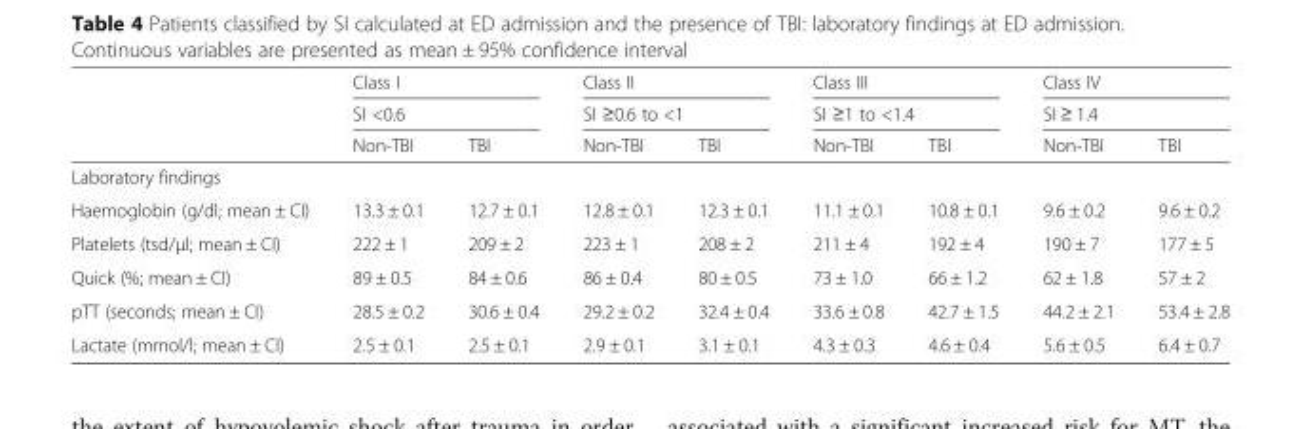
<table><thead><tr><td rowspan="3"></td><td rowspan="2" colspan="2">Class I SI &lt;0.6</td><td rowspan="2" colspan="2">Class II SI ≥0.6 to &lt;1</td><td rowspan="2" colspan="2">Class III SI ≥1 to &lt;1.4</td><td rowspan="2" colspan="2">Class IV SI ≥ 1.4</td></tr><tr></tr><tr><td>Non-TBI</td><td>TBI</td><td>Non-TBI</td><td>TBI</td><td>Non-TBI</td><td>TBI</td><td>Non-TBI</td><td>TBI</td></tr></thead><tbody><tr><td colspan="9">Laboratory findings</td></tr><tr><td>Haemoglobin (g/dl; mean ± CI)</td><td>13.3 ± 0.1</td><td>12.7 ± 0.1</td><td>12.8 ± 0.1</td><td>12.3 ± 0.1</td><td>11.1 ± 0.1</td><td>10.8 ± 0.1</td><td>9.6 ± 0.2</td><td>9.6 ± 0.2</td></tr><tr><td>Platelets (tsd/μl; mean ± CI)</td><td>222 ± 1</td><td>209 ± 2</td><td>223 ± 1</td><td>208 ± 2</td><td>211 ± 4</td><td>192 ± 4</td><td>190 ± 7</td><td>177 ± 5</td></tr><tr><td>Quick (%; mean ± CI)</td><td>89 ± 0.5</td><td>84 ± 0.6</td><td>86 ± 0.4</td><td>80 ± 0.5</td><td>73 ± 1.0</td><td>66 ± 1.2</td><td>62 ± 1.8</td><td>57 ± 2</td></tr><tr><td>pTT (seconds; mean ± CI)</td><td>28.5 ± 0.2</td><td>30.6 ± 0.4</td><td>29.2 ± 0.2</td><td>32.4 ± 0.4</td><td>33.6 ± 0.8</td><td>42.7 ± 1.5</td><td>44.2 ± 2.1</td><td>53.4 ± 2.8</td></tr><tr><td>Lactate (mmol/l; mean ± CI)</td><td>2.5 ± 0.1</td><td>2.5 ± 0.1</td><td>2.9 ± 0.1</td><td>3.1 ± 0.1</td><td>4.3 ± 0.3</td><td>4.6 ± 0.4</td><td>5.6 ± 0.5</td><td>6.4 ± 0.7</td></tr></tbody></table>